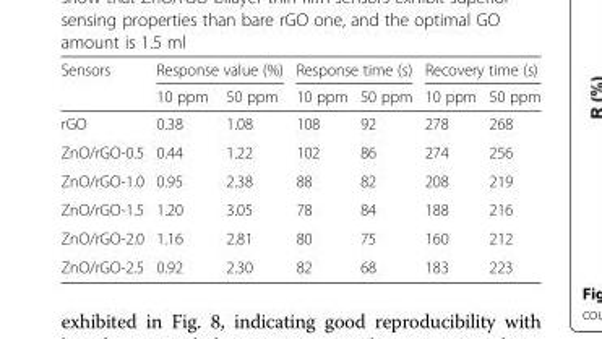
<table><thead><tr><td rowspan="2">Sensors</td><td colspan="2">Response value (%)</td><td colspan="2">Response time (s)</td><td colspan="2">Recovery time (s)</td></tr><tr><td>10 ppm</td><td>50 ppm</td><td>10 ppm</td><td>50 ppm</td><td>10 ppm</td><td>50 ppm</td></tr></thead><tbody><tr><td>rGO</td><td>0.38</td><td>1.08</td><td>108</td><td>92</td><td>278</td><td>268</td></tr><tr><td>ZnO/rGO-0.5</td><td>0.44</td><td>1.22</td><td>102</td><td>86</td><td>274</td><td>256</td></tr><tr><td>ZnO/rGO-1.0</td><td>0.95</td><td>2.38</td><td>88</td><td>82</td><td>208</td><td>219</td></tr><tr><td>ZnO/rGO-1.5</td><td>1.20</td><td>3.05</td><td>78</td><td>84</td><td>188</td><td>216</td></tr><tr><td>ZnO/rGO-2.0</td><td>1.16</td><td>2.81</td><td>80</td><td>75</td><td>160</td><td>212</td></tr><tr><td>ZnO/rGO-2.5</td><td>0.92</td><td>2.30</td><td>82</td><td>68</td><td>183</td><td>223</td></tr></tbody></table>